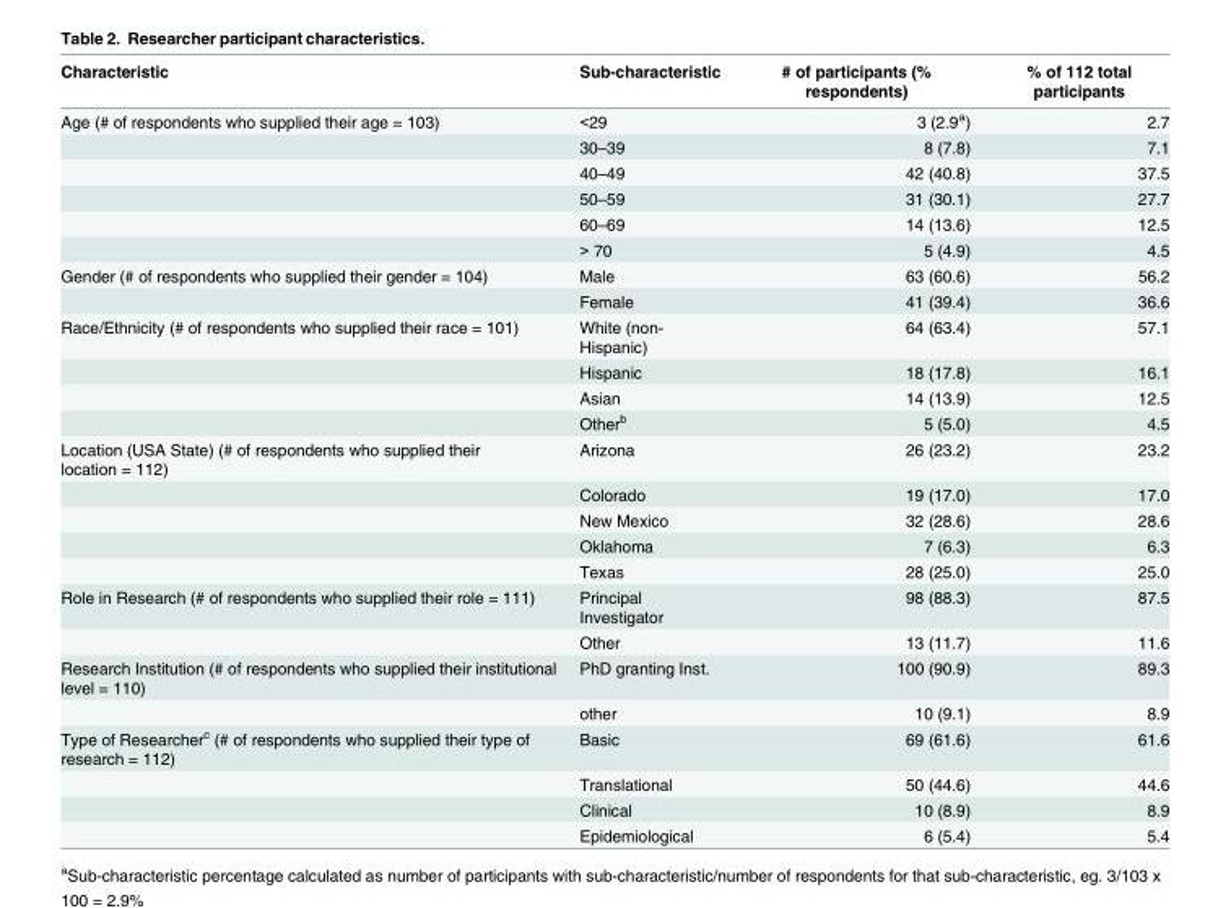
<table><thead><tr><td>Characteristic</td><td>Sub-characteristic</td><td># of participants (% respondents)</td><td>% of 112 total participants</td></tr></thead><tbody><tr><td rowspan="6">Age (# of respondents who supplied their age = 103)</td><td>&lt;29</td><td>3 (2.9<sup>a</sup>)</td><td>2.7</td></tr><tr><td>30–39</td><td>8 (7.8)</td><td>7.1</td></tr><tr><td>40–49</td><td>42 (40.8)</td><td>37.5</td></tr><tr><td>50–59</td><td>31 (30.1)</td><td>27.7</td></tr><tr><td>60–69</td><td>14 (13.6)</td><td>12.5</td></tr><tr><td>&gt; 70</td><td>5 (4.9)</td><td>4.5</td></tr><tr><td rowspan="2">Gender (# of respondents who supplied their gender = 104)</td><td>Male</td><td>63 (60.6)</td><td>56.2</td></tr><tr><td>Female</td><td>41 (39.4)</td><td>36.6</td></tr><tr><td rowspan="4">Race/Ethnicity (# of respondents who supplied their race = 101)</td><td>White (non- Hispanic)</td><td>64 (63.4)</td><td>57.1</td></tr><tr><td>Hispanic</td><td>18 (17.8)</td><td>16.1</td></tr><tr><td>Asian</td><td>14 (13.9)</td><td>12.5</td></tr><tr><td>Other<sup>b</sup></td><td>5 (5.0)</td><td>4.5</td></tr><tr><td rowspan="5">Location (USA State) (# of respondents who supplied their location = 112)</td><td>Arizona</td><td>26 (23.2)</td><td>23.2</td></tr><tr><td>Colorado</td><td>19 (17.0)</td><td>17.0</td></tr><tr><td>New Mexico</td><td>32 (28.6)</td><td>28.6</td></tr><tr><td>Oklahoma</td><td>7 (6.3)</td><td>6.3</td></tr><tr><td>Texas</td><td>28 (25.0)</td><td>25.0</td></tr><tr><td rowspan="2">Role in Research (# of respondents who supplied their role = 111)</td><td>Principal Investigator</td><td>98 (88.3)</td><td>87.5</td></tr><tr><td>Other</td><td>13 (11.7)</td><td>11.6</td></tr><tr><td rowspan="2">Research Institution (# of respondents who supplied their institutional level = 110)</td><td>PhD granting Inst.</td><td>100 (90.9)</td><td>89.3</td></tr><tr><td>other</td><td>10 (9.1)</td><td>8.9</td></tr><tr><td rowspan="4">Type of Researcher<sup>c</sup> (# of respondents who supplied their type of research = 112)</td><td>Basic</td><td>69 (61.6)</td><td>61.6</td></tr><tr><td>Translational</td><td>50 (44.6)</td><td>44.6</td></tr><tr><td>Clinical</td><td>10 (8.9)</td><td>8.9</td></tr><tr><td>Epidemiological</td><td>6 (5.4)</td><td>5.4</td></tr></tbody></table>